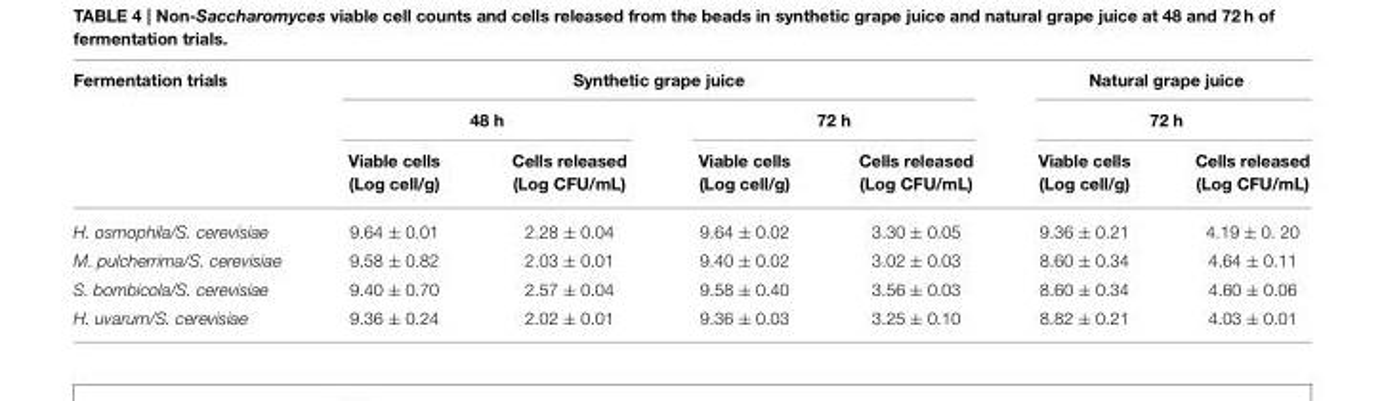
<table><thead><tr><td rowspan="3">Fermentation trials</td><td colspan="4">Synthetic grape juice</td><td rowspan="2" colspan="2">Natural grape juice 72 h</td></tr><tr><td colspan="2">48 h</td><td colspan="2">72 h</td></tr><tr><td>Viable cells (Log cell/g)</td><td>Cells released (Log CFU/mL)</td><td>Viable cells (Log cell/g)</td><td>Cells released (Log CFU/mL)</td><td>Viable cells (Log cell/g)</td><td>Cells released (Log CFU/mL)</td></tr></thead><tbody><tr><td>H. osmophila/S. cerevisiae</td><td>9.64 ± 0.01</td><td>2.28 ± 0.04</td><td>9.64 ± 0.02</td><td>3.30 ± 0.05</td><td>9.36 ± 0.21</td><td>4.19 ± 0. 20</td></tr><tr><td>M. pulcherrima/S. cerevisiae</td><td>9.58 ± 0.82</td><td>2.03 ± 0.01</td><td>9.40 ± 0.02</td><td>3.02 ± 0.03</td><td>8.60 ± 0.34</td><td>4.64 ± 0.11</td></tr><tr><td>S. bombicola/S. cerevisiae</td><td>9.40 ± 0.70</td><td>2.57 ± 0.04</td><td>9.58 ± 0.40</td><td>3.56 ± 0.03</td><td>8.60 ± 0.34</td><td>4.60 ± 0.06</td></tr><tr><td>H. uvarum/S. cerevisiae</td><td>9.36 ± 0.24</td><td>2.02 ± 0.01</td><td>9.36 ± 0.03</td><td>3.25 ± 0.10</td><td>8.82 ± 0.21</td><td>4.03 ± 0.01</td></tr></tbody></table>